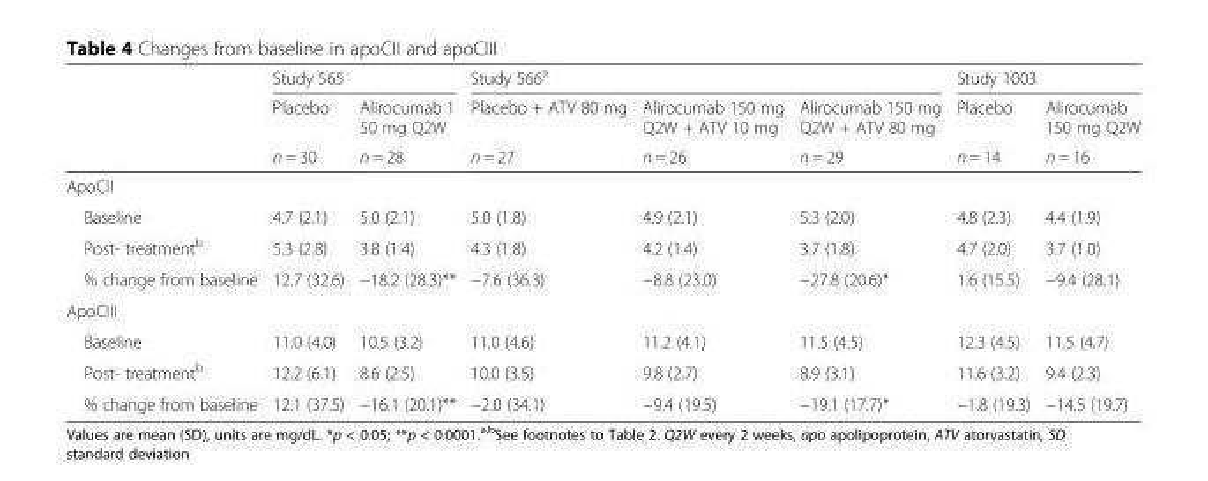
<table><thead><tr><td rowspan="3"></td><td colspan="2">Study 565</td><td colspan="3">Study 566<sup>a</sup></td><td colspan="2">Study 1003</td></tr><tr><td rowspan="2">Placebo n = 30</td><td rowspan="2">Alirocumab 1 50 mg Q2W n = 28</td><td rowspan="2">Placebo + ATV 80 mg n = 27</td><td rowspan="2">Alirocumab 150 mg Q2W + ATV 10 mg n = 26</td><td rowspan="2">Alirocumab 150 mg Q2W + ATV 80 mg n = 29</td><td rowspan="2">Placebo n = 14</td><td rowspan="2">Alirocumab 150 mg Q2W n = 16</td></tr><tr></tr></thead><tbody><tr><td colspan="8">ApoCII</td></tr><tr><td>Baseline</td><td>4.7 (2.1)</td><td>5.0 (2.1)</td><td>5.0 (1.8)</td><td>4.9 (2.1)</td><td>5.3 (2.0)</td><td>4.8 (2.3)</td><td>4.4 (1.9)</td></tr><tr><td>Post- treatment<sup>b</sup></td><td>5.3 (2.8)</td><td>3.8 (1.4)</td><td>4.3 (1.8)</td><td>4.2 (1.4)</td><td>3.7 (1.8)</td><td>4.7 (2.0)</td><td>3.7 (1.0)</td></tr><tr><td>% change from baseline</td><td>12.7 (32.6)</td><td>−18.2 (28.3)**</td><td>−7.6 (36.3)</td><td>−8.8 (23.0)</td><td>−27.8 (20.6)*</td><td>1.6 (15.5)</td><td>−9.4 (28.1)</td></tr><tr><td colspan="8">ApoCIII</td></tr><tr><td>Baseline</td><td>11.0 (4.0)</td><td>10.5 (3.2)</td><td>11.0 (4.6)</td><td>11.2 (4.1)</td><td>11.5 (4.5)</td><td>12.3 (4.5)</td><td>11.5 (4.7)</td></tr><tr><td>Post- treatment<sup>b</sup></td><td>12.2 (6.1)</td><td>8.6 (2.5)</td><td>10.0 (3.5)</td><td>9.8 (2.7)</td><td>8.9 (3.1)</td><td>11.6 (3.2)</td><td>9.4 (2.3)</td></tr><tr><td>% change from baseline</td><td>12.1 (37.5)</td><td>−16.1 (20.1)**</td><td>−2.0 (34.1)</td><td>−9.4 (19.5)</td><td>−19.1 (17.7)*</td><td>−1.8 (19.3)</td><td>−14.5 (19.7)</td></tr></tbody></table>